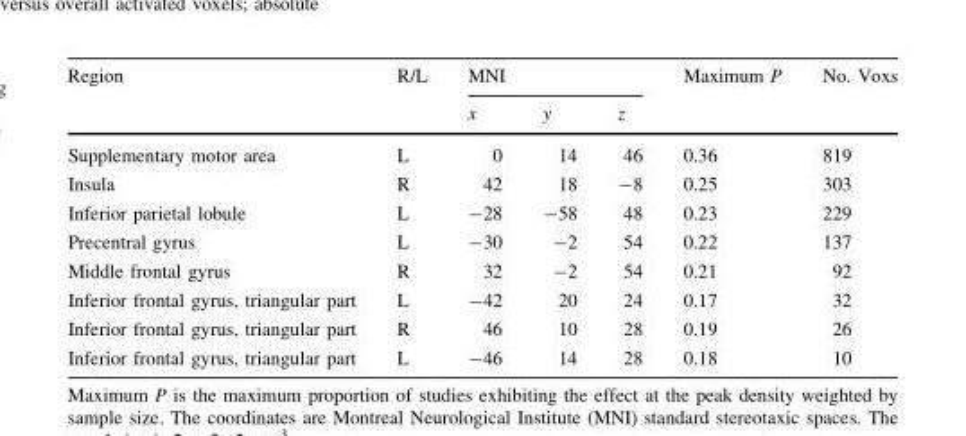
<table><thead><tr><td rowspan="2">Region</td><td rowspan="2">R/L</td><td colspan="3">MNI</td><td rowspan="2">Maximum P</td><td rowspan="2">No. Voxs</td></tr><tr><td>x</td><td>y</td><td>z</td></tr></thead><tbody><tr><td>Supplementary motor area</td><td>L</td><td>0</td><td>14</td><td>46</td><td>0.36</td><td>819</td></tr><tr><td>Insula</td><td>R</td><td>42</td><td>18</td><td>-8</td><td>0.25</td><td>303</td></tr><tr><td>Inferior parietal lobule</td><td>L</td><td>-28</td><td>-58</td><td>48</td><td>0.23</td><td>229</td></tr><tr><td>Precentral gyrus</td><td>L</td><td>-30</td><td>-2</td><td>54</td><td>0.22</td><td>137</td></tr><tr><td>Middle frontal gyrus</td><td>R</td><td>32</td><td>-2</td><td>54</td><td>0.21</td><td>92</td></tr><tr><td>Inferior frontal gyrus, triangular part</td><td>L</td><td>-42</td><td>20</td><td>24</td><td>0.17</td><td>32</td></tr><tr><td>Inferior frontal gyrus, triangular part</td><td>R</td><td>46</td><td>10</td><td>28</td><td>0.19</td><td>26</td></tr><tr><td>Inferior frontal gyrus, triangular part</td><td>L</td><td>-46</td><td>14</td><td>28</td><td>0.18</td><td>10</td></tr></tbody></table>